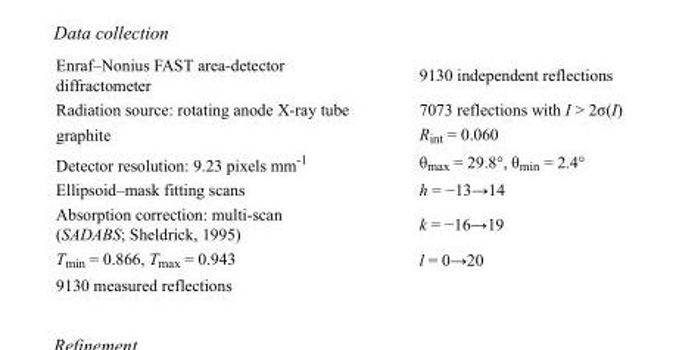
<table><tbody><tr><td>Enraf–Nonius FAST area-detector diffractometer</td><td>9130 independent reflections</td></tr><tr><td>Radiation source: rotating anode X-ray tube</td><td>7073 reflections with I &gt; 2σ(I)</td></tr><tr><td>graphite</td><td>R<sub>int</sub> = 0.060</td></tr><tr><td>Detector resolution: 9.23 pixels mm<sup>-1</sup></td><td>θ<sub>max</sub> = 29.8°, θ<sub>min</sub> = 2.4°</td></tr><tr><td>Ellipsoid–mask fitting scans</td><td>h = −13→14</td></tr><tr><td>Absorption correction: multi-scan (SADABS; Sheldrick, 1995)</td><td>k = −16→19</td></tr><tr><td>T<sub>min</sub> = 0.866, T<sub>max</sub> = 0.943</td><td>l = 0→20</td></tr><tr><td>9130 measured reflections</td><td></td></tr></tbody></table>